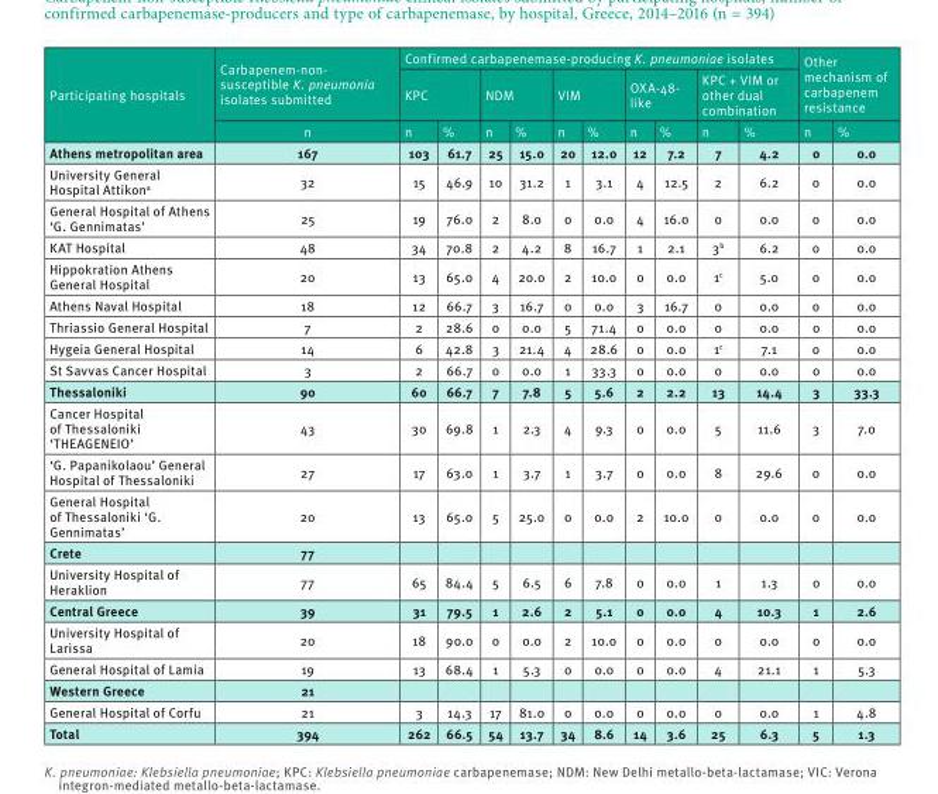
<table><thead><tr><td rowspan="3">Participating hospitals</td><td rowspan="3">Carbapenem-non- susceptible K. pneumonia isolates submitted n</td><td colspan="10">Confirmed carbapenemase-producing K. pneumoniae isolates</td><td rowspan="2" colspan="2">Other mechanism of carbapenem resistance</td></tr><tr><td colspan="2">KPC</td><td colspan="2">NDM</td><td colspan="2">VIM</td><td colspan="2">OXA-48- like</td><td colspan="2">KPC + VIM or other dual combination</td></tr><tr><td>n</td><td>%</td><td>n</td><td>%</td><td>n</td><td>%</td><td>n</td><td>%</td><td>n</td><td>%</td><td>n</td><td>%</td></tr></thead><tbody><tr><td>Athens metropolitan area</td><td>167</td><td>103</td><td>61.7</td><td>25</td><td>15.0</td><td>20</td><td>12.0</td><td>12</td><td>7.2</td><td>7</td><td>4.2</td><td>0</td><td>0.0</td></tr><tr><td>University General Hospital Attikon<sup>a</sup></td><td>32</td><td>15</td><td>46.9</td><td>10</td><td>31.2</td><td>1</td><td>3.1</td><td>4</td><td>12.5</td><td>2</td><td>6.2</td><td>0</td><td>0.0</td></tr><tr><td>General Hospital of Athens ‘G. Gennimatas’</td><td>25</td><td>19</td><td>76.0</td><td>2</td><td>8.0</td><td>0</td><td>0.0</td><td>4</td><td>16.0</td><td>0</td><td>0.0</td><td>0</td><td>0.0</td></tr><tr><td>KAT Hospital</td><td>48</td><td>34</td><td>70.8</td><td>2</td><td>4.2</td><td>8</td><td>16.7</td><td>1</td><td>2.1</td><td>3<sup>b</sup></td><td>6.2</td><td>0</td><td>0.0</td></tr><tr><td>Hippokration Athens General Hospital</td><td>20</td><td>13</td><td>65.0</td><td>4</td><td>20.0</td><td>2</td><td>10.0</td><td>0</td><td>0.0</td><td>1<sup>c</sup></td><td>5.0</td><td>0</td><td>0.0</td></tr><tr><td>Athens Naval Hospital</td><td>18</td><td>12</td><td>66.7</td><td>3</td><td>16.7</td><td>0</td><td>0.0</td><td>3</td><td>16.7</td><td>0</td><td>0.0</td><td>0</td><td>0.0</td></tr><tr><td>Thriassio General Hospital</td><td>7</td><td>2</td><td>28.6</td><td>0</td><td>0.0</td><td>5</td><td>71.4</td><td>0</td><td>0.0</td><td>0</td><td>0.0</td><td>0</td><td>0.0</td></tr><tr><td>Hygeia General Hospital</td><td>14</td><td>6</td><td>42.8</td><td>3</td><td>21.4</td><td>4</td><td>28.6</td><td>0</td><td>0.0</td><td>1<sup>c</sup></td><td>7.1</td><td>0</td><td>0.0</td></tr><tr><td>St Savvas Cancer Hospital</td><td>3</td><td>2</td><td>66.7</td><td>0</td><td>0.0</td><td>1</td><td>33.3</td><td>0</td><td>0.0</td><td>0</td><td>0.0</td><td>0</td><td>0.0</td></tr><tr><td>Thessaloniki</td><td>90</td><td>60</td><td>66.7</td><td>7</td><td>7.8</td><td>5</td><td>5.6</td><td>2</td><td>2.2</td><td>13</td><td>14.4</td><td>3</td><td>33.3</td></tr><tr><td>Cancer Hospital of Thessaloniki ‘THEAGENEIO’</td><td>43</td><td>30</td><td>69.8</td><td>1</td><td>2.3</td><td>4</td><td>9.3</td><td>0</td><td>0.0</td><td>5</td><td>11.6</td><td>3</td><td>7.0</td></tr><tr><td>‘G. Papanikolaou’ General Hospital of Thessaloniki</td><td>27</td><td>17</td><td>63.0</td><td>1</td><td>3.7</td><td>1</td><td>3.7</td><td>0</td><td>0.0</td><td>8</td><td>29.6</td><td>0</td><td>0.0</td></tr><tr><td>General Hospital of Thessaloniki ‘G. Gennimatas’</td><td>20</td><td>13</td><td>65.0</td><td>5</td><td>25.0</td><td>0</td><td>0.0</td><td>2</td><td>10.0</td><td>0</td><td>0.0</td><td>0</td><td>0.0</td></tr><tr><td>Crete</td><td>77</td><td></td><td></td><td></td><td></td><td></td><td></td><td></td><td></td><td></td><td></td><td></td><td></td></tr><tr><td>University Hospital of Heraklion</td><td>77</td><td>65</td><td>84.4</td><td>5</td><td>6.5</td><td>6</td><td>7.8</td><td>0</td><td>0.0</td><td>1</td><td>1.3</td><td>0</td><td>0.0</td></tr><tr><td>Central Greece</td><td>39</td><td>31</td><td>79.5</td><td>1</td><td>2.6</td><td>2</td><td>5.1</td><td>0</td><td>0.0</td><td>4</td><td>10.3</td><td>1</td><td>2.6</td></tr><tr><td>University Hospital of Larissa</td><td>20</td><td>18</td><td>90.0</td><td>0</td><td>0.0</td><td>2</td><td>10.0</td><td>0</td><td>0.0</td><td>0</td><td>0.0</td><td>0</td><td>0.0</td></tr><tr><td>General Hospital of Lamia</td><td>19</td><td>13</td><td>68.4</td><td>1</td><td>5.3</td><td>0</td><td>0.0</td><td>0</td><td>0.0</td><td>4</td><td>21.1</td><td>1</td><td>5.3</td></tr><tr><td>Western Greece</td><td>21</td><td></td><td></td><td></td><td></td><td></td><td></td><td></td><td></td><td></td><td></td><td></td><td></td></tr><tr><td>General Hospital of Corfu</td><td>21</td><td>3</td><td>14.3</td><td>17</td><td>81.0</td><td>0</td><td>0.0</td><td>0</td><td>0.0</td><td>0</td><td>0.0</td><td>1</td><td>4.8</td></tr><tr><td>Total</td><td>394</td><td>262</td><td>66.5</td><td>54</td><td>13.7</td><td>34</td><td>8.6</td><td>14</td><td>3.6</td><td>25</td><td>6.3</td><td>5</td><td>1.3</td></tr></tbody></table>